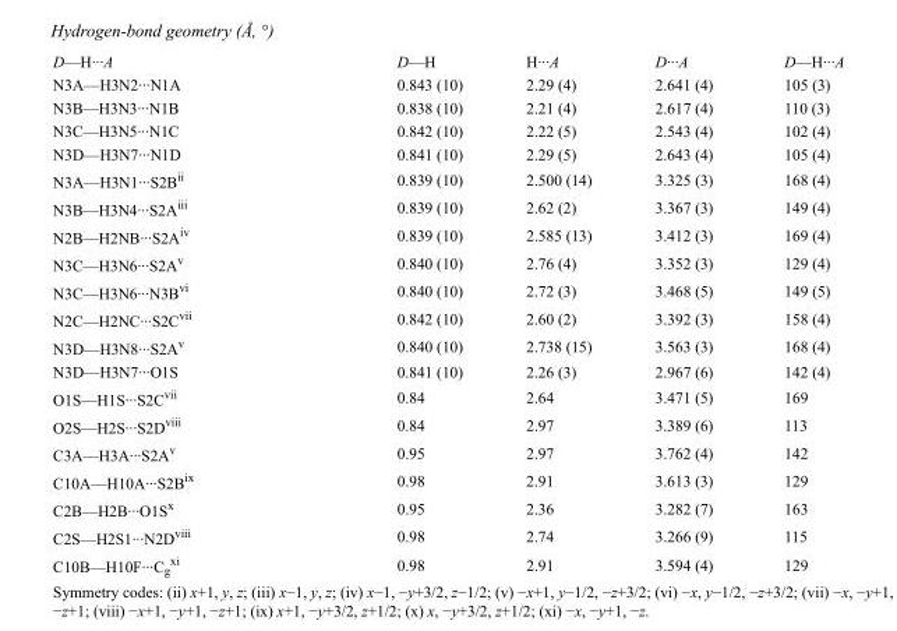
<table><tbody><tr><td>D—H···A</td><td>D—H</td><td>H···A</td><td>D···A</td><td>D—H···A</td></tr><tr><td>N3A—H3N2···N1A</td><td>0.843 (10)</td><td>2.29 (4)</td><td>2.641 (4)</td><td>105 (3)</td></tr><tr><td>N3B—H3N3···N1B</td><td>0.838 (10)</td><td>2.21 (4)</td><td>2.617 (4)</td><td>110 (3)</td></tr><tr><td>N3C—H3N5···N1C</td><td>0.842 (10)</td><td>2.22 (5)</td><td>2.543 (4)</td><td>102 (4)</td></tr><tr><td>N3D—H3N7···N1D</td><td>0.841 (10)</td><td>2.29 (5)</td><td>2.643 (4)</td><td>105 (4)</td></tr><tr><td>N3A—H3N1···S2B<sup>ii</sup></td><td>0.839 (10)</td><td>2.500 (14)</td><td>3.325 (3)</td><td>168 (4)</td></tr><tr><td>N3B—H3N4···S2A<sup>iii</sup></td><td>0.839 (10)</td><td>2.62 (2)</td><td>3.367 (3)</td><td>149 (4)</td></tr><tr><td>N2B—H2NB···S2A<sup>iv</sup></td><td>0.839 (10)</td><td>2.585 (13)</td><td>3.412 (3)</td><td>169 (4)</td></tr><tr><td>N3C—H3N6···S2A<sup>v</sup></td><td>0.840 (10)</td><td>2.76 (4)</td><td>3.352 (3)</td><td>129 (4)</td></tr><tr><td>N3C—H3N6···N3B<sup>vi</sup></td><td>0.840 (10)</td><td>2.72 (3)</td><td>3.468 (5)</td><td>149 (5)</td></tr><tr><td>N2C—H2NC···S2C<sup>vii</sup></td><td>0.842 (10)</td><td>2.60 (2)</td><td>3.392 (3)</td><td>158 (4)</td></tr><tr><td>N3D—H3N8···S2A<sup>v</sup></td><td>0.840 (10)</td><td>2.738 (15)</td><td>3.563 (3)</td><td>168 (4)</td></tr><tr><td>N3D—H3N7···O1S</td><td>0.841 (10)</td><td>2.26 (3)</td><td>2.967 (6)</td><td>142 (4)</td></tr><tr><td>O1S—H1S···S2C<sup>vii</sup></td><td>0.84</td><td>2.64</td><td>3.471 (5)</td><td>169</td></tr><tr><td>O2S—H2S···S2D<sup>viii</sup></td><td>0.84</td><td>2.97</td><td>3.389 (6)</td><td>113</td></tr><tr><td>C3A—H3A···S2A<sup>v</sup></td><td>0.95</td><td>2.97</td><td>3.762 (4)</td><td>142</td></tr><tr><td>C10A—H10A···S2B<sup>ix</sup></td><td>0.98</td><td>2.91</td><td>3.613 (3)</td><td>129</td></tr><tr><td>C2B—H2B···O1S<sup>x</sup></td><td>0.95</td><td>2.36</td><td>3.282 (7)</td><td>163</td></tr><tr><td>C2S—H2S1···N2D<sup>viii</sup></td><td>0.98</td><td>2.74</td><td>3.266 (9)</td><td>115</td></tr><tr><td>C10B—H10F···C<sub>g</sub> <sup>xi</sup></td><td>0.98</td><td>2.91</td><td>3.594 (4)</td><td>129</td></tr></tbody></table>